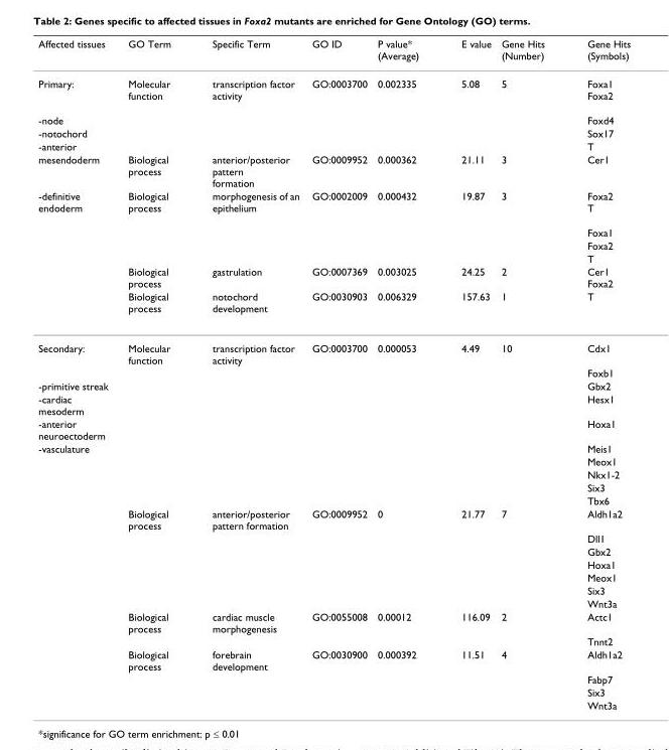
<table><thead><tr><td>Affected tissues</td><td>GO Term</td><td>Specific Term</td><td>GO ID</td><td>P value* (Average)</td><td>E value</td><td>Gene Hits (Number)</td><td>Gene Hits (Symbols)</td></tr></thead><tbody><tr><td>Primary:</td><td>Molecular function</td><td>transcription factor activity</td><td>GO:0003700</td><td>0.002335</td><td>5.08</td><td>5</td><td>Foxa1 Foxa2</td></tr><tr><td>-node</td><td></td><td></td><td></td><td></td><td></td><td></td><td>Foxd4</td></tr><tr><td>-notochord</td><td></td><td></td><td></td><td></td><td></td><td></td><td>Sox17</td></tr><tr><td>-anterior</td><td></td><td></td><td></td><td></td><td></td><td></td><td>T</td></tr><tr><td>mesendoderm</td><td>Biological process</td><td>anterior/posterior pattern formation</td><td>GO:0009952</td><td>0.000362</td><td>21.11</td><td>3</td><td>Cer1</td></tr><tr><td rowspan="6">-definitive endoderm</td><td>Biological process</td><td>morphogenesis of an epithelium</td><td>GO:0002009</td><td>0.000432</td><td>19.87</td><td>3</td><td>Foxa2 T</td></tr><tr><td></td><td></td><td></td><td></td><td></td><td></td><td>Foxa1</td></tr><tr><td></td><td></td><td></td><td></td><td></td><td></td><td>Foxa2</td></tr><tr><td></td><td></td><td></td><td></td><td></td><td></td><td>T</td></tr><tr><td>Biological process</td><td>gastrulation</td><td>GO:0007369</td><td>0.003025</td><td>24.25</td><td>2</td><td>Cer1 Foxa2</td></tr><tr><td>Biological process</td><td>notochord development</td><td>GO:0030903</td><td>0.006329</td><td>157.63</td><td>1</td><td>T</td></tr><tr><td rowspan="2">Secondary:</td><td>Molecular function</td><td>transcription factor activity</td><td>GO:0003700</td><td>0.000053</td><td>4.49</td><td>10</td><td>Cdx1</td></tr><tr><td></td><td></td><td></td><td></td><td></td><td></td><td>Foxb1</td></tr><tr><td>-primitive streak</td><td></td><td></td><td></td><td></td><td></td><td></td><td>Gbx2</td></tr><tr><td>-cardiac mesoderm</td><td></td><td></td><td></td><td></td><td></td><td></td><td>Hesx1</td></tr><tr><td>-anterior neuroectoderm</td><td></td><td></td><td></td><td></td><td></td><td></td><td>Hoxa1</td></tr><tr><td rowspan="18">-vasculature</td><td></td><td></td><td></td><td></td><td></td><td></td><td>Meis1</td></tr><tr><td></td><td></td><td></td><td></td><td></td><td></td><td>Meox1</td></tr><tr><td></td><td></td><td></td><td></td><td></td><td></td><td>Nkx1-2</td></tr><tr><td></td><td></td><td></td><td></td><td></td><td></td><td>Six3</td></tr><tr><td></td><td></td><td></td><td></td><td></td><td></td><td>Tbx6</td></tr><tr><td>Biological process</td><td>anterior/posterior pattern formation</td><td>GO:0009952</td><td>0</td><td>21.77</td><td>7</td><td>Aldh1a2</td></tr><tr><td></td><td></td><td></td><td></td><td></td><td></td><td>Dll1</td></tr><tr><td></td><td></td><td></td><td></td><td></td><td></td><td>Gbx2</td></tr><tr><td></td><td></td><td></td><td></td><td></td><td></td><td>Hoxa1</td></tr><tr><td></td><td></td><td></td><td></td><td></td><td></td><td>Meox1</td></tr><tr><td></td><td></td><td></td><td></td><td></td><td></td><td>Six3</td></tr><tr><td></td><td></td><td></td><td></td><td></td><td></td><td>Wnt3a</td></tr><tr><td>Biological process</td><td>cardiac muscle morphogenesis</td><td>GO:0055008</td><td>0.00012</td><td>116.09</td><td>2</td><td>Actc1</td></tr><tr><td></td><td></td><td></td><td></td><td></td><td></td><td>Tnnt2</td></tr><tr><td>Biological process</td><td>forebrain development</td><td>GO:0030900</td><td>0.000392</td><td>11.51</td><td>4</td><td>Aldh1a2</td></tr><tr><td></td><td></td><td></td><td></td><td></td><td></td><td>Fabp7</td></tr><tr><td></td><td></td><td></td><td></td><td></td><td></td><td>Six3</td></tr><tr><td></td><td></td><td></td><td></td><td></td><td></td><td>Wnt3a</td></tr></tbody></table>